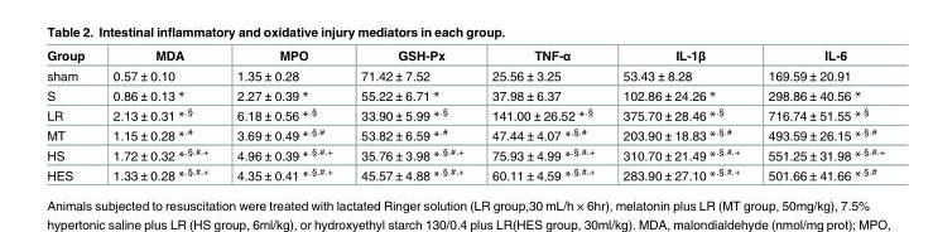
<table><thead><tr><td>Group</td><td>MDA</td><td>MPO</td><td>GSH-Px</td><td>TNF-α</td><td>IL-1β</td><td>IL-6</td></tr></thead><tbody><tr><td>sham</td><td>0.57 ± 0.10</td><td>1.35 ± 0.28</td><td>71.42 ± 7.52</td><td>25.56 ± 3.25</td><td>53.43 ± 8.28</td><td>169.59 ± 20.91</td></tr><tr><td>S</td><td>0.86 ± 0.13 *</td><td>2.27 ± 0.39 *</td><td>55.22 ± 6.71 *</td><td>37.98 ± 6.37</td><td>102.86 ± 24.26 *</td><td>298.86 ± 40.56 *</td></tr><tr><td>LR</td><td>2.13 ± 0.31 *<sup>.§</sup></td><td>6.18 ± 0.56 *<sup>.§</sup></td><td>33.90 ± 5.99 *<sup>.§</sup></td><td>141.00 ± 26.52 *<sup>.§</sup></td><td>375.70 ± 28.46 *<sup>.§</sup></td><td>716.74 ± 51.55 *<sup>.§</sup></td></tr><tr><td>MT</td><td>1.15 ± 0.28 *<sup>.#</sup></td><td>3.69 ± 0.49 *<sup>.§.#</sup></td><td>53.82 ± 6.59 *<sup>.#</sup></td><td>47.44 ± 4.07 *<sup>.§.#</sup></td><td>203.90 ± 18.83 *<sup>.§.#</sup></td><td>493.59 ± 26.15 *<sup>.§.#</sup></td></tr><tr><td>HS</td><td>1.72 ± 0.32 *<sup>.§.#.+</sup></td><td>4.96 ± 0.39 *<sup>.§.#.+</sup></td><td>35.76 ± 3.98 *<sup>.§.#.+</sup></td><td>75.93 ± 4.99 *<sup>.§.#.+</sup></td><td>310.70 ± 21.49 *<sup>.§.#.+</sup></td><td>551.25 ± 31.98 *<sup>.§.#.+</sup></td></tr><tr><td>HES</td><td>1.33 ± 0.28 *<sup>.§.#.+</sup></td><td>4.35 ± 0.41 *<sup>.§.#.+</sup></td><td>45.57 ± 4.88 *<sup>.§.#.+</sup></td><td>60.11 ± 4.59 *<sup>.§.#.+</sup></td><td>283.90 ± 27.10 *<sup>.§.#.+</sup></td><td>501.66 ± 41.66 *<sup>.§.#</sup></td></tr></tbody></table>